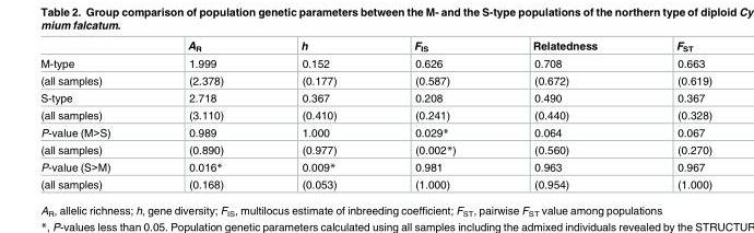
<table><thead><tr><td></td><td>A<sub>R</sub></td><td>h</td><td>F<sub>IS</sub></td><td>Relatedness</td><td>F<sub>ST</sub></td></tr></thead><tbody><tr><td>M-type</td><td>1.999</td><td>0.152</td><td>0.626</td><td>0.708</td><td>0.663</td></tr><tr><td>(all samples)</td><td>(2.378)</td><td>(0.177)</td><td>(0.587)</td><td>(0.672)</td><td>(0.619)</td></tr><tr><td>S-type</td><td>2.718</td><td>0.367</td><td>0.208</td><td>0.490</td><td>0.367</td></tr><tr><td>(all samples)</td><td>(3.110)</td><td>(0.410)</td><td>(0.241)</td><td>(0.440)</td><td>(0.328)</td></tr><tr><td>P-value (M&gt;S)</td><td>0.989</td><td>1.000</td><td>0.029*</td><td>0.064</td><td>0.067</td></tr><tr><td>(all samples)</td><td>(0.890)</td><td>(0.977)</td><td>(0.002*)</td><td>(0.560)</td><td>(0.270)</td></tr><tr><td>P-value (S&gt;M)</td><td>0.016*</td><td>0.009*</td><td>0.981</td><td>0.963</td><td>0.967</td></tr><tr><td>(all samples)</td><td>(0.168)</td><td>(0.053)</td><td>(1.000)</td><td>(0.954)</td><td>(1.000)</td></tr></tbody></table>